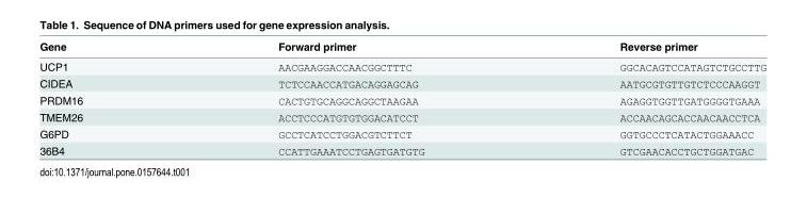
<table><thead><tr><td>Gene</td><td>Forward primer</td><td>Reverse primer</td></tr></thead><tbody><tr><td>UCP1</td><td>AACGAAGGACCAACGGCTTTC</td><td>GGCACAGTCCATAGTCTGCCTTG</td></tr><tr><td>CIDEA</td><td>TCTCCAACCATGACAGGAGCAG</td><td>AATGCGTGTTGTCTCCCAAGGT</td></tr><tr><td>PRDM16</td><td>CACTGTGCAGGCAGGCTAAGAA</td><td>AGAGGTGGTTGATGGGGTGAAA</td></tr><tr><td>TMEM26</td><td>ACCTCCCATGTGTGGACATCCT</td><td>ACCAACAGCACCAACAACCTCA</td></tr><tr><td>G6PD</td><td>GCCTCATCCTGGACGTCTTCT</td><td>GGTGCCCTCATACTGGAAACC</td></tr><tr><td>36B4</td><td>CCATTGAAATCCTGAGTGATGTG</td><td>GTCGAACACCTGCTGGATGAC</td></tr></tbody></table>